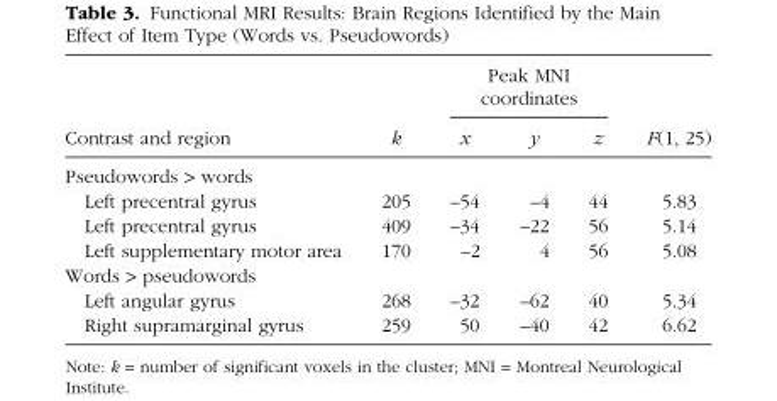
<table><thead><tr><td rowspan="2">Contrast and region</td><td rowspan="2">k</td><td colspan="3">Peak MNI coordinates</td><td rowspan="2">F(1, 25)</td></tr><tr><td>x</td><td>y</td><td>z</td></tr></thead><tbody><tr><td colspan="6">Pseudowords &gt; words</td></tr><tr><td>Left precentral gyrus</td><td>205</td><td>–54</td><td>–4</td><td>44</td><td>5.83</td></tr><tr><td>Left precentral gyrus</td><td>409</td><td>–34</td><td>–22</td><td>56</td><td>5.14</td></tr><tr><td>Left supplementary motor area</td><td>170</td><td>–2</td><td>4</td><td>56</td><td>5.08</td></tr><tr><td colspan="6">Words &gt; pseudowords</td></tr><tr><td>Left angular gyrus</td><td>268</td><td>–32</td><td>–62</td><td>40</td><td>5.34</td></tr><tr><td>Right supramarginal gyrus</td><td>259</td><td>50</td><td>–40</td><td>42</td><td>6.62</td></tr></tbody></table>